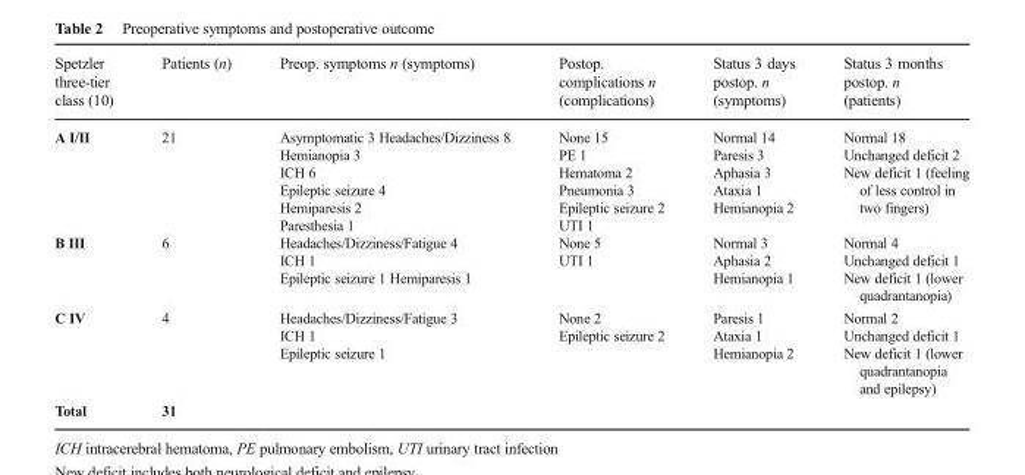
<table><thead><tr><td>Spetzler three-tier class (10)</td><td>Patients (n)</td><td>Preop. symptoms n (symptoms)</td><td>Postop. complications n (complications)</td><td>Status 3 days postop. n (symptoms)</td><td>Status 3 months postop. n (patients)</td></tr></thead><tbody><tr><td>A I/II</td><td>21</td><td>Asymptomatic 3 Headaches/Dizziness 8 Hemianopia 3 ICH 6 Epileptic seizure 4 Hemiparesis 2 Paresthesia 1</td><td>None 15 PE 1 Hematoma 2 Pneumonia 3 Epileptic seizure 2 UTI 1</td><td>Normal 14 Paresis 3 Aphasia 3 Ataxia 1 Hemianopia 2</td><td>Normal 18 Unchanged deficit 2 New deficit 1 (feeling of less control in two fingers)</td></tr><tr><td>B III</td><td>6</td><td>Headaches/Dizziness/Fatigue 4 ICH 1 Epileptic seizure 1 Hemiparesis 1</td><td>None 5 UTI 1</td><td>Normal 3 Aphasia 2 Hemianopia 1</td><td>Normal 4 Unchanged deficit 1 New deficit 1 (lower quadrantanopia)</td></tr><tr><td>C IV</td><td>4</td><td>Headaches/Dizziness/Fatigue 3 ICH 1 Epileptic seizure 1</td><td>None 2 Epileptic seizure 2</td><td>Paresis 1 Ataxia 1 Hemianopia 2</td><td>Normal 2 Unchanged deficit 1 New deficit 1 (lower quadrantanopia and epilepsy)</td></tr><tr><td>Total</td><td>31</td><td></td><td></td><td></td><td></td></tr></tbody></table>